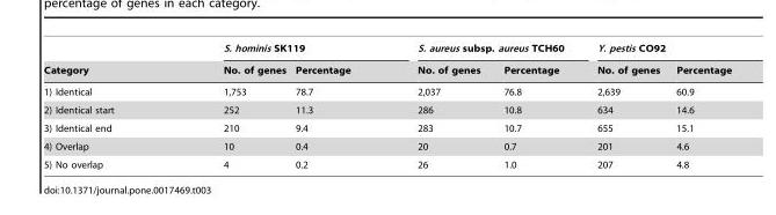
<table><thead><tr><td rowspan="2">Category</td><td colspan="2">S. hominis SK119</td><td colspan="2">S. aureus subsp. aureus TCH60</td><td colspan="2">Y. pestis CO92</td></tr><tr><td>No. of genes</td><td>Percentage</td><td>No. of genes</td><td>Percentage</td><td>No. of genes</td><td>Percentage</td></tr></thead><tbody><tr><td>1) Identical</td><td>1,753</td><td>78.7</td><td>2,037</td><td>76.8</td><td>2,639</td><td>60.9</td></tr><tr><td>2) Identical start</td><td>252</td><td>11.3</td><td>286</td><td>10.8</td><td>634</td><td>14.6</td></tr><tr><td>3) Identical end</td><td>210</td><td>9.4</td><td>283</td><td>10.7</td><td>655</td><td>15.1</td></tr><tr><td>4) Overlap</td><td>10</td><td>0.4</td><td>20</td><td>0.7</td><td>201</td><td>4.6</td></tr><tr><td>5) No overlap</td><td>4</td><td>0.2</td><td>26</td><td>1.0</td><td>207</td><td>4.8</td></tr></tbody></table>